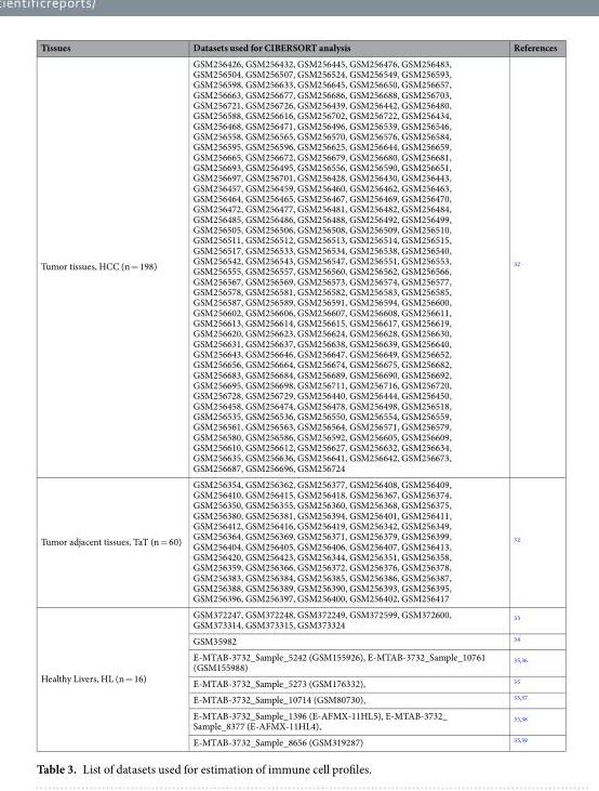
<table><thead><tr><td>Tissues</td><td>Datasets used for CIBERSORT analysis</td><td>References</td></tr></thead><tbody><tr><td>Tumor tissues, HCC (n = 198)</td><td>GSM256426, GSM256432, GSM256445, GSM256476, GSM256483, GSM256504, GSM256507, GSM256524, GSM256549, GSM256593, GSM256598, GSM256633, GSM256645, GSM256650, GSM256657, GSM256663, GSM256677, GSM256686, GSM256688, GSM256703, GSM256721, GSM256726, GSM256439, GSM256442, GSM256480, GSM256588, GSM256616, GSM256702, GSM256722, GSM256434, GSM256468, GSM256471, GSM256496, GSM256539, GSM256546, GSM256558, GSM256565, GSM256570, GSM256576, GSM256584, GSM256595, GSM256596, GSM256625, GSM256644, GSM256659, GSM256665, GSM256672, GSM256679, GSM256680, GSM256681, GSM256693, GSM256495, GSM256556, GSM256590, GSM256651, GSM256697, GSM256701, GSM256428, GSM256430, GSM256443, GSM256457, GSM256459, GSM256460, GSM256462, GSM256463, GSM256464, GSM256465, GSM256467, GSM256469, GSM256470, GSM256472, GSM256477, GSM256481, GSM256482, GSM256484, GSM256485, GSM256486, GSM256488, GSM256492, GSM256499, GSM256505, GSM256506, GSM256508, GSM256509, GSM256510, GSM256511, GSM256512, GSM256513, GSM256514, GSM256515, GSM256517, GSM256533, GSM256534, GSM256538, GSM256540, GSM256542, GSM256543, GSM256547, GSM256551, GSM256553, GSM256555, GSM256557, GSM256560, GSM256562, GSM256566, GSM256567, GSM256569, GSM256573, GSM256574, GSM256577, GSM256578, GSM256581, GSM256582, GSM256583, GSM256585, GSM256587, GSM256589, GSM256591, GSM256594, GSM256600, GSM256602, GSM256606, GSM256607, GSM256608, GSM256611, GSM256613, GSM256614, GSM256615, GSM256617, GSM256619, GSM256620, GSM256623, GSM256624, GSM256628, GSM256630, GSM256631, GSM256637, GSM256638, GSM256639, GSM256640, GSM256643, GSM256646, GSM256647, GSM256649, GSM256652, GSM256656, GSM256664, GSM256674, GSM256675, GSM256682, GSM256683, GSM256684, GSM256689, GSM256690, GSM256692, GSM256695, GSM256698, GSM256711, GSM256716, GSM256720, GSM256728, GSM256729, GSM256440, GSM256444, GSM256450, GSM256458, GSM256474, GSM256478, GSM256498, GSM256518, GSM256535, GSM256536, GSM256550, GSM256554, GSM256559, GSM256561, GSM256563, GSM256564, GSM256571, GSM256579, GSM256580, GSM256586, GSM256592, GSM256605, GSM256609, GSM256610, GSM256612, GSM256627, GSM256632, GSM256634, GSM256635, GSM256636, GSM256641, GSM256642, GSM256673, GSM256687, GSM256696, GSM256724</td><td><sup>32</sup></td></tr><tr><td>Tumor adjacent tissues, TaT (n = 60)</td><td>GSM256354, GSM256362, GSM256377, GSM256408, GSM256409, GSM256410, GSM256415, GSM256418, GSM256367, GSM256374, GSM256350, GSM256355, GSM256360, GSM256368, GSM256375, GSM256380, GSM256381, GSM256394, GSM256401, GSM256411, GSM256412, GSM256416, GSM256419, GSM256342, GSM256349, GSM256364, GSM256369, GSM256371, GSM256379, GSM256399, GSM256404, GSM256405, GSM256406, GSM256407, GSM256413, GSM256420, GSM256423, GSM256344, GSM256351, GSM256358, GSM256359, GSM256366, GSM256372, GSM256376, GSM256378, GSM256383, GSM256384, GSM256385, GSM256386, GSM256387, GSM256388, GSM256389, GSM256390, GSM256393, GSM256395, GSM256396, GSM256397, GSM256400, GSM256402, GSM256417</td><td><sup>32</sup></td></tr><tr><td rowspan="7">Healthy Livers, HL (n = 16)</td><td>GSM372247, GSM372248, GSM372249, GSM372599, GSM372600, GSM373314, GSM373315, GSM373324</td><td><sup>33</sup></td></tr><tr><td>GSM35982</td><td><sup>34</sup></td></tr><tr><td>E-MTAB-3732_Sample_5242 (GSM155926), E-MTAB-3732_Sample_10761 (GSM155988)</td><td><sup>35,36</sup></td></tr><tr><td>E-MTAB-3732_Sample_5273 (GSM176332),</td><td><sup>35</sup></td></tr><tr><td>E-MTAB-3732_Sample_10714 (GSM80730),</td><td><sup>35,37</sup></td></tr><tr><td>E-MTAB-3732_Sample_1396 (E-AFMX-11HL5), E-MTAB-3732_ Sample_8377 (E-AFMX-11HL4),</td><td><sup>35,38</sup></td></tr><tr><td>E-MTAB-3732_Sample_8656 (GSM319287)</td><td><sup>35,39</sup></td></tr></tbody></table>